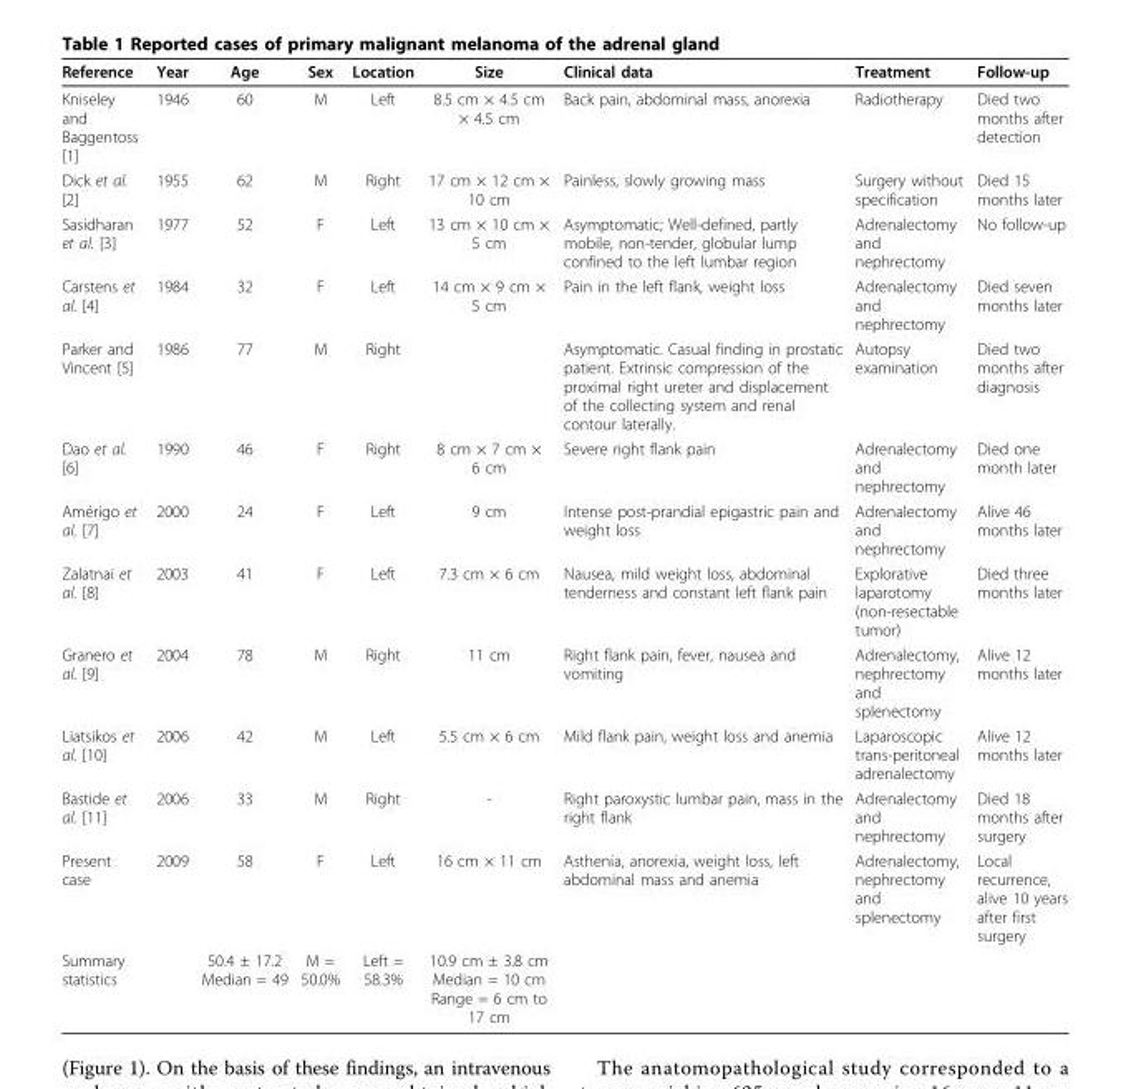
<table><thead><tr><td>Reference</td><td>Year</td><td>Age</td><td>Sex</td><td>Location</td><td>Size</td><td>Clinical data</td><td>Treatment</td><td>Follow-up</td></tr></thead><tbody><tr><td>Kniseley and Baggentoss [1]</td><td>1946</td><td>60</td><td>M</td><td>Left</td><td>8.5 cm × 4.5 cm × 4.5 cm</td><td>Back pain, abdominal mass, anorexia</td><td>Radiotherapy</td><td>Died two months after detection</td></tr><tr><td>Dick et al. [2]</td><td>1955</td><td>62</td><td>M</td><td>Right</td><td>17 cm × 12 cm × 10 cm</td><td>Painless, slowly growing mass</td><td>Surgery without specification</td><td>Died 15 months later</td></tr><tr><td>Sasidharan et al. [3]</td><td>1977</td><td>52</td><td>F</td><td>Left</td><td>13 cm × 10 cm × 5 cm</td><td>Asymptomatic; Well-defined, partly mobile, non-tender, globular lump confined to the left lumbar region</td><td>Adrenalectomy and nephrectomy</td><td>No follow-up</td></tr><tr><td>Carstens et al. [4]</td><td>1984</td><td>32</td><td>F</td><td>Left</td><td>14 cm × 9 cm × 5 cm</td><td>Pain in the left flank, weight loss</td><td>Adrenalectomy and nephrectomy</td><td>Died seven months later</td></tr><tr><td>Parker and Vincent [5]</td><td>1986</td><td>77</td><td>M</td><td>Right</td><td></td><td>Asymptomatic. Casual finding in prostatic patient. Extrinsic compression of the proximal right ureter and displacement of the collecting system and renal contour laterally.</td><td>Autopsy examination</td><td>Died two months after diagnosis</td></tr><tr><td>Dao et al. [6]</td><td>1990</td><td>46</td><td>F</td><td>Right</td><td>8 cm × 7 cm × 6 cm</td><td>Severe right flank pain</td><td>Adrenalectomy and nephrectomy</td><td>Died one month later</td></tr><tr><td>Amérigo et al. [7]</td><td>2000</td><td>24</td><td>F</td><td>Left</td><td>9 cm</td><td>Intense post-prandial epigastric pain and weight loss</td><td>Adrenalectomy and nephrectomy</td><td>Alive 46 months later</td></tr><tr><td>Zalatnai et al. [8]</td><td>2003</td><td>41</td><td>F</td><td>Left</td><td>7.3 cm × 6 cm</td><td>Nausea, mild weight loss, abdominal tenderness and constant left flank pain</td><td>Explorative laparotomy (non-resectable tumor)</td><td>Died three months later</td></tr><tr><td>Granero et al. [9]</td><td>2004</td><td>78</td><td>M</td><td>Right</td><td>11 cm</td><td>Right flank pain, fever, nausea and vomiting</td><td>Adrenalectomy, nephrectomy and splenectomy</td><td>Alive 12 months later</td></tr><tr><td>Liatsikos et al. [10]</td><td>2006</td><td>42</td><td>M</td><td>Left</td><td>5.5 cm × 6 cm</td><td>Mild flank pain, weight loss and anemia</td><td>Laparoscopic trans-peritoneal adrenalectomy</td><td>Alive 12 months later</td></tr><tr><td>Bastide et al. [11]</td><td>2006</td><td>33</td><td>M</td><td>Right</td><td>-</td><td>Right paroxystic lumbar pain, mass in the right flank</td><td>Adrenalectomy and nephrectomy</td><td>Died 18 months after surgery</td></tr><tr><td>Present case</td><td>2009</td><td>58</td><td>F</td><td>Left</td><td>16 cm × 11 cm</td><td>Asthenia, anorexia, weight loss, left abdominal mass and anemia</td><td>Adrenalectomy, nephrectomy and splenectomy</td><td>Local recurrence, alive 10 years after first surgery</td></tr><tr><td>Summary statistics</td><td></td><td>50.4 ± 17.2 Median = 49</td><td>M = 50.0%</td><td>Left = 58.3%</td><td>10.9 cm ± 3.8 cm Median = 10 cm Range = 6 cm to 17 cm</td><td></td><td></td><td></td></tr></tbody></table>